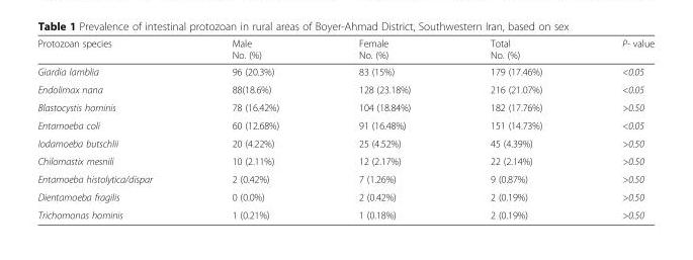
<table><thead><tr><td>Protozoan species</td><td>Male No. (%)</td><td>Female No. (%)</td><td>Total No. (%)</td><td>P- value</td></tr></thead><tbody><tr><td>Giardia lamblia</td><td>96 (20.3%)</td><td>83 (15%)</td><td>179 (17.46%)</td><td>&lt;0.05</td></tr><tr><td>Endolimax nana</td><td>88(18.6%)</td><td>128 (23.18%)</td><td>216 (21.07%)</td><td>&lt;0.05</td></tr><tr><td>Blastocystis hominis</td><td>78 (16.42%)</td><td>104 (18.84%)</td><td>182 (17.76%)</td><td>&gt;0.50</td></tr><tr><td>Entamoeba coli</td><td>60 (12.68%)</td><td>91 (16.48%)</td><td>151 (14.73%)</td><td>&lt;0.05</td></tr><tr><td>Iodamoeba butschlii</td><td>20 (4.22%)</td><td>25 (4.52%)</td><td>45 (4.39%)</td><td>&gt;0.50</td></tr><tr><td>Chilomastix mesnili</td><td>10 (2.11%)</td><td>12 (2.17%)</td><td>22 (2.14%)</td><td>&gt;0.50</td></tr><tr><td>Entamoeba histolytica/dispar</td><td>2 (0.42%)</td><td>7 (1.26%)</td><td>9 (0.87%)</td><td>&gt;0.50</td></tr><tr><td>Dientamoeba fragilis</td><td>0 (0.0%)</td><td>2 (0.42%)</td><td>2 (0.19%)</td><td>&gt;0.50</td></tr><tr><td>Trichomonas hominis</td><td>1 (0.21%)</td><td>1 (0.18%)</td><td>2 (0.19%)</td><td>&gt;0.50</td></tr></tbody></table>